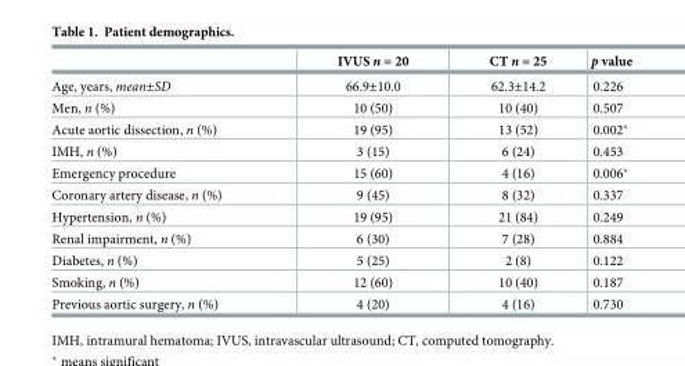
<table><thead><tr><td></td><td>IVUS n = 20</td><td>CT n = 25</td><td>p value</td></tr></thead><tbody><tr><td>Age, years, mean±SD</td><td>66.9±10.0</td><td>62.3±14.2</td><td>0.226</td></tr><tr><td>Men, n (%)</td><td>10 (50)</td><td>10 (40)</td><td>0.507</td></tr><tr><td>Acute aortic dissection, n (%)</td><td>19 (95)</td><td>13 (52)</td><td>0.002*</td></tr><tr><td>IMH, n (%)</td><td>3 (15)</td><td>6 (24)</td><td>0.453</td></tr><tr><td>Emergency procedure</td><td>15 (60)</td><td>4 (16)</td><td>0.006*</td></tr><tr><td>Coronary artery disease, n (%)</td><td>9 (45)</td><td>8 (32)</td><td>0.337</td></tr><tr><td>Hypertension, n (%)</td><td>19 (95)</td><td>21 (84)</td><td>0.249</td></tr><tr><td>Renal impairment, n (%)</td><td>6 (30)</td><td>7 (28)</td><td>0.884</td></tr><tr><td>Diabetes, n (%)</td><td>5 (25)</td><td>2 (8)</td><td>0.122</td></tr><tr><td>Smoking, n (%)</td><td>12 (60)</td><td>10 (40)</td><td>0.187</td></tr><tr><td>Previous aortic surgery, n (%)</td><td>4 (20)</td><td>4 (16)</td><td>0.730</td></tr></tbody></table>